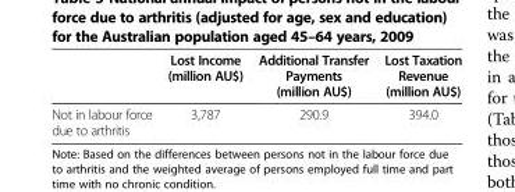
<table><thead><tr><td></td><td>Lost Income (million AU$)</td><td>Additional Transfer Payments (million AU$)</td><td>Lost Taxation Revenue (million AU$)</td></tr></thead><tbody><tr><td>Not in labour force due to arthritis</td><td>3,787</td><td>290.9</td><td>394.0</td></tr></tbody></table>